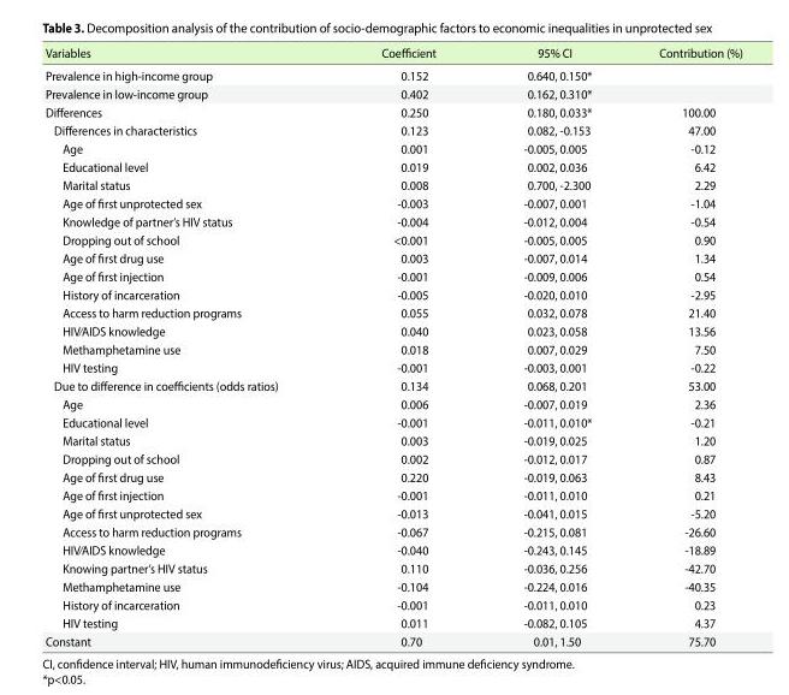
<table><thead><tr><td>Variables</td><td>Coefficient</td><td>95% CI</td><td>Contribution (%)</td></tr></thead><tbody><tr><td>Prevalence in high-income group</td><td>0.152</td><td>0.640, 0.150*</td><td></td></tr><tr><td>Prevalence in low-income group</td><td>0.402</td><td>0.162, 0.310*</td><td></td></tr><tr><td>Differences</td><td>0.250</td><td>0.180, 0.033*</td><td>100.00</td></tr><tr><td>Differences in characteristics</td><td>0.123</td><td>0.082, -0.153</td><td>47.00</td></tr><tr><td>Age</td><td>0.001</td><td>-0.005, 0.005</td><td>-0.12</td></tr><tr><td>Educational level</td><td>0.019</td><td>0.002, 0.036</td><td>6.42</td></tr><tr><td>Marital status</td><td>0.008</td><td>0.700, -2.300</td><td>2.29</td></tr><tr><td>Age of first unprotected sex</td><td>-0.003</td><td>-0.007, 0.001</td><td>-1.04</td></tr><tr><td>Knowledge of partner’s HIV status</td><td>-0.004</td><td>-0.012, 0.004</td><td>-0.54</td></tr><tr><td>Dropping out of school</td><td>&lt;0.001</td><td>-0.005, 0.005</td><td>0.90</td></tr><tr><td>Age of first drug use</td><td>0.003</td><td>-0.007, 0.014</td><td>1.34</td></tr><tr><td>Age of first injection</td><td>-0.001</td><td>-0.009, 0.006</td><td>0.54</td></tr><tr><td>History of incarceration</td><td>-0.005</td><td>-0.020, 0.010</td><td>-2.95</td></tr><tr><td>Access to harm reduction programs</td><td>0.055</td><td>0.032, 0.078</td><td>21.40</td></tr><tr><td>HIV⁄AIDS knowledge</td><td>0.040</td><td>0.023, 0.058</td><td>13.56</td></tr><tr><td>Methamphetamine use</td><td>0.018</td><td>0.007, 0.029</td><td>7.50</td></tr><tr><td>HIV testing</td><td>-0.001</td><td>-0.003, 0.001</td><td>-0.22</td></tr><tr><td>Due to difference in coefficients (odds ratios)</td><td>0.134</td><td>0.068, 0.201</td><td>53.00</td></tr><tr><td>Age</td><td>0.006</td><td>-0.007, 0.019</td><td>2.36</td></tr><tr><td>Educational level</td><td>-0.001</td><td>-0.011, 0.010*</td><td>-0.21</td></tr><tr><td>Marital status</td><td>0.003</td><td>-0.019, 0.025</td><td>1.20</td></tr><tr><td>Dropping out of school</td><td>0.002</td><td>-0.012, 0.017</td><td>0.87</td></tr><tr><td>Age of first drug use</td><td>0.220</td><td>-0.019, 0.063</td><td>8.43</td></tr><tr><td>Age of first injection</td><td>-0.001</td><td>-0.011, 0.010</td><td>0.21</td></tr><tr><td>Age of first unprotected sex</td><td>-0.013</td><td>-0.041, 0.015</td><td>-5.20</td></tr><tr><td>Access to harm reduction programs</td><td>-0.067</td><td>-0.215, 0.081</td><td>-26.60</td></tr><tr><td>HIV⁄AIDS knowledge</td><td>-0.040</td><td>-0.243, 0.145</td><td>-18.89</td></tr><tr><td>Knowing partner’s HIV status</td><td>0.110</td><td>-0.036, 0.256</td><td>-42.70</td></tr><tr><td>Methamphetamine use</td><td>-0.104</td><td>-0.224, 0.016</td><td>-40.35</td></tr><tr><td>History of incarceration</td><td>-0.001</td><td>-0.011, 0.010</td><td>0.23</td></tr><tr><td>HIV testing</td><td>0.011</td><td>-0.082, 0.105</td><td>4.37</td></tr><tr><td>Constant</td><td>0.70</td><td>0.01, 1.50</td><td>75.70</td></tr></tbody></table>